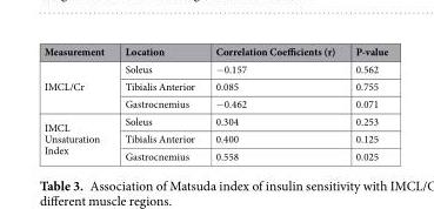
<table><thead><tr><td>Measurement</td><td>Location</td><td>Correlation Coefficients (r)</td><td>P-value</td></tr></thead><tbody><tr><td rowspan="3">IMCL/Cr</td><td>Soleus</td><td>−0.157</td><td>0.562</td></tr><tr><td>Tibialis Anterior</td><td>0.085</td><td>0.755</td></tr><tr><td>Gastrocnemius</td><td>−0.462</td><td>0.071</td></tr><tr><td rowspan="3">IMCL Unsaturation Index</td><td>Soleus</td><td>0.304</td><td>0.253</td></tr><tr><td>Tibialis Anterior</td><td>0.400</td><td>0.125</td></tr><tr><td>Gastrocnemius</td><td>0.558</td><td>0.025</td></tr></tbody></table>